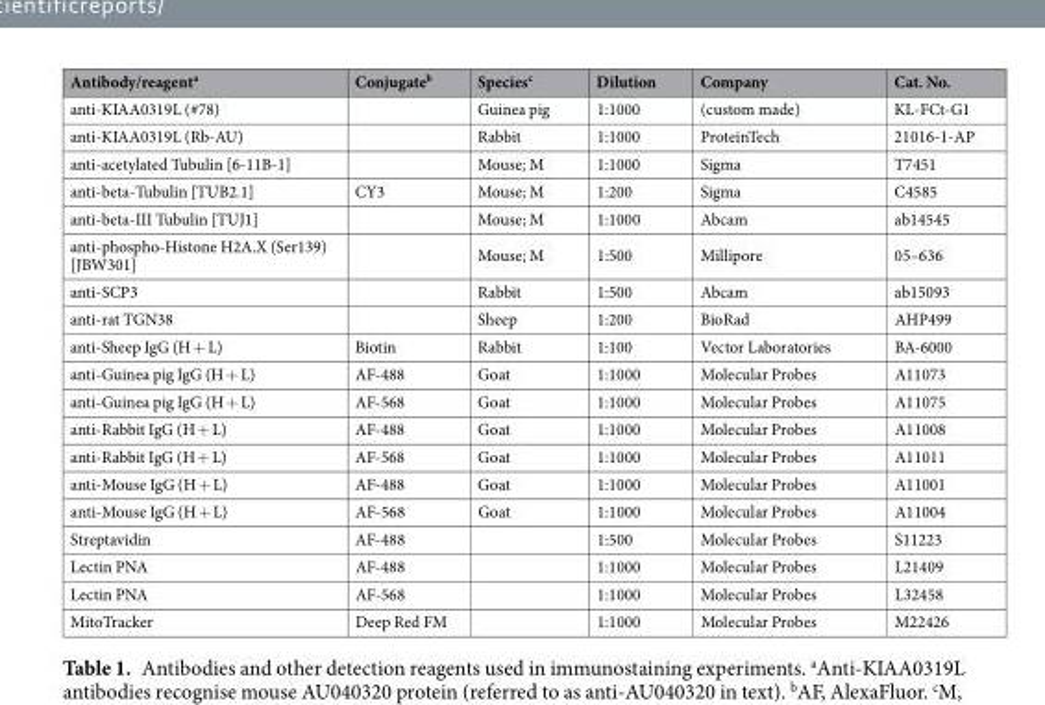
<table><thead><tr><td>Antibody/reagent<sup>a</sup></td><td>Conjugate<sup>b</sup></td><td>Species<sup>c</sup></td><td>Dilution</td><td>Company</td><td>Cat. No.</td></tr></thead><tbody><tr><td>anti-KIAA0319L (#78)</td><td></td><td>Guinea pig</td><td>1:1000</td><td>(custom made)</td><td>KL-FCt-G1</td></tr><tr><td>anti-KIAA0319L (Rb-AU)</td><td></td><td>Rabbit</td><td>1:1000</td><td>ProteinTech</td><td>21016-1-AP</td></tr><tr><td>anti-acetylated Tubulin [6-11B-1]</td><td></td><td>Mouse; M</td><td>1:1000</td><td>Sigma</td><td>T7451</td></tr><tr><td>anti-beta-Tubulin [TUB2.1]</td><td>CY3</td><td>Mouse; M</td><td>1:200</td><td>Sigma</td><td>C4585</td></tr><tr><td>anti-beta-III Tubulin [TUJ1]</td><td></td><td>Mouse; M</td><td>1:1000</td><td>Abcam</td><td>ab14545</td></tr><tr><td>anti-phospho-Histone H2A.X (Ser139) [JBW301]</td><td></td><td>Mouse; M</td><td>1:500</td><td>Millipore</td><td>05–636</td></tr><tr><td>anti-SCP3</td><td></td><td>Rabbit</td><td>1:500</td><td>Abcam</td><td>ab15093</td></tr><tr><td>anti-rat TGN38</td><td></td><td>Sheep</td><td>1:200</td><td>BioRad</td><td>AHP499</td></tr><tr><td>anti-Sheep IgG (H + L)</td><td>Biotin</td><td>Rabbit</td><td>1:100</td><td>Vector Laboratories</td><td>BA-6000</td></tr><tr><td>anti-Guinea pig IgG (H + L)</td><td>AF-488</td><td>Goat</td><td>1:1000</td><td>Molecular Probes</td><td>A11073</td></tr><tr><td>anti-Guinea pig IgG (H + L)</td><td>AF-568</td><td>Goat</td><td>1:1000</td><td>Molecular Probes</td><td>A11075</td></tr><tr><td>anti-Rabbit IgG (H + L)</td><td>AF-488</td><td>Goat</td><td>1:1000</td><td>Molecular Probes</td><td>A11008</td></tr><tr><td>anti-Rabbit IgG (H + L)</td><td>AF-568</td><td>Goat</td><td>1:1000</td><td>Molecular Probes</td><td>A11011</td></tr><tr><td>anti-Mouse IgG (H + L)</td><td>AF-488</td><td>Goat</td><td>1:1000</td><td>Molecular Probes</td><td>A11001</td></tr><tr><td>anti-Mouse IgG (H + L)</td><td>AF-568</td><td>Goat</td><td>1:1000</td><td>Molecular Probes</td><td>A11004</td></tr><tr><td>Streptavidin</td><td>AF-488</td><td></td><td>1:500</td><td>Molecular Probes</td><td>S11223</td></tr><tr><td>Lectin PNA</td><td>AF-488</td><td></td><td>1:1000</td><td>Molecular Probes</td><td>L21409</td></tr><tr><td>Lectin PNA</td><td>AF-568</td><td></td><td>1:1000</td><td>Molecular Probes</td><td>L32458</td></tr><tr><td>MitoTracker</td><td>Deep Red FM</td><td></td><td>1:1000</td><td>Molecular Probes</td><td>M22426</td></tr></tbody></table>